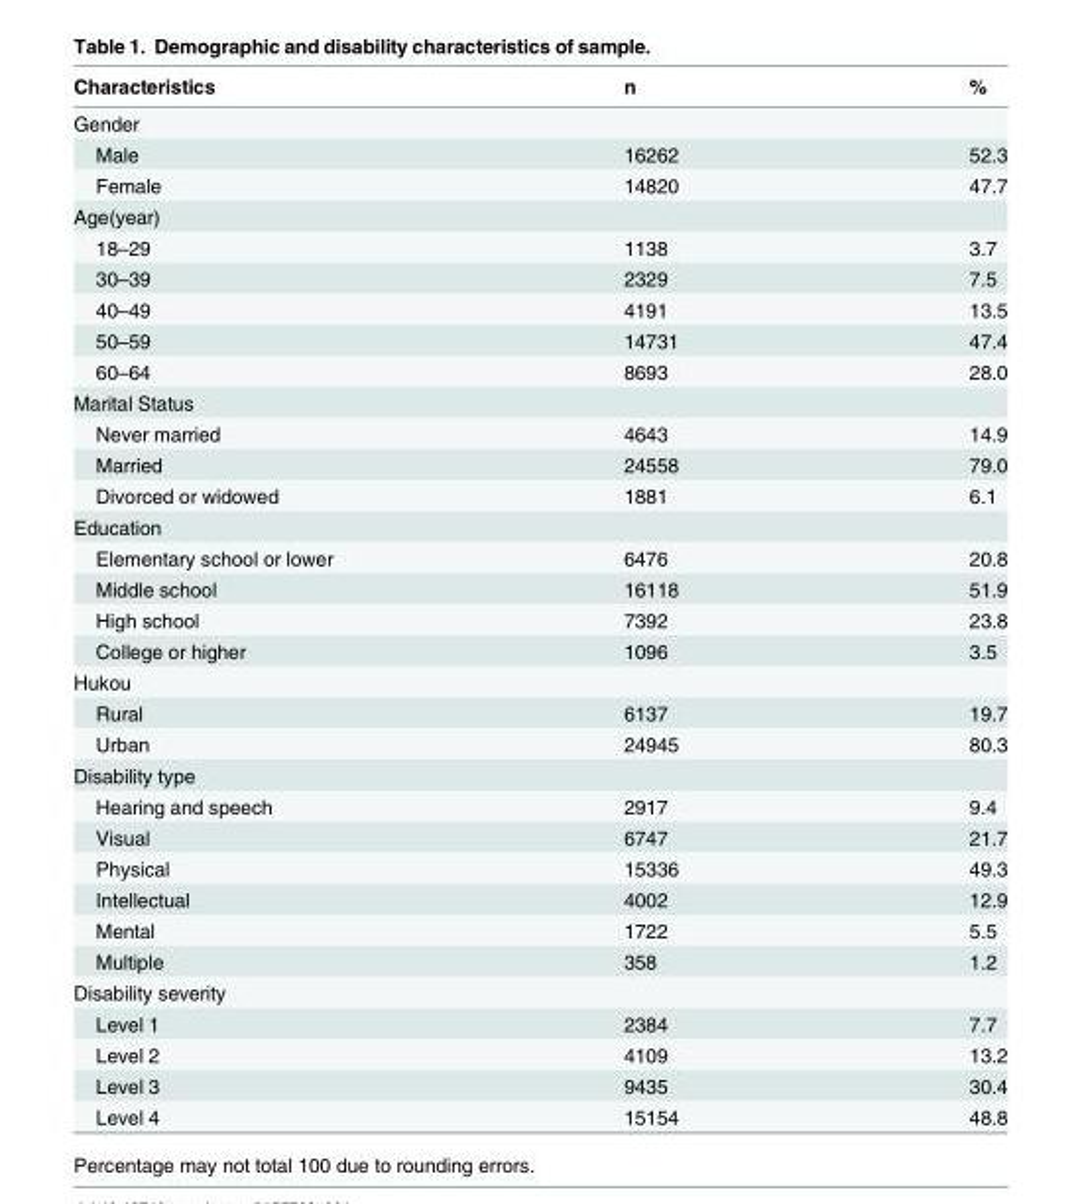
<table><thead><tr><td>Characteristics</td><td>n</td><td>%</td></tr></thead><tbody><tr><td colspan="3">Gender</td></tr><tr><td>Male</td><td>16262</td><td>52.3</td></tr><tr><td>Female</td><td>14820</td><td>47.7</td></tr><tr><td colspan="3">Age(year)</td></tr><tr><td>18–29</td><td>1138</td><td>3.7</td></tr><tr><td>30–39</td><td>2329</td><td>7.5</td></tr><tr><td>40–49</td><td>4191</td><td>13.5</td></tr><tr><td>50–59</td><td>14731</td><td>47.4</td></tr><tr><td>60–64</td><td>8693</td><td>28.0</td></tr><tr><td colspan="3">Marital Status</td></tr><tr><td>Never married</td><td>4643</td><td>14.9</td></tr><tr><td>Married</td><td>24558</td><td>79.0</td></tr><tr><td>Divorced or widowed</td><td>1881</td><td>6.1</td></tr><tr><td colspan="3">Education</td></tr><tr><td>Elementary school or lower</td><td>6476</td><td>20.8</td></tr><tr><td>Middle school</td><td>16118</td><td>51.9</td></tr><tr><td>High school</td><td>7392</td><td>23.8</td></tr><tr><td>College or higher</td><td>1096</td><td>3.5</td></tr><tr><td colspan="3">Hukou</td></tr><tr><td>Rural</td><td>6137</td><td>19.7</td></tr><tr><td>Urban</td><td>24945</td><td>80.3</td></tr><tr><td colspan="3">Disability type</td></tr><tr><td>Hearing and speech</td><td>2917</td><td>9.4</td></tr><tr><td>Visual</td><td>6747</td><td>21.7</td></tr><tr><td>Physical</td><td>15336</td><td>49.3</td></tr><tr><td>Intellectual</td><td>4002</td><td>12.9</td></tr><tr><td>Mental</td><td>1722</td><td>5.5</td></tr><tr><td>Multiple</td><td>358</td><td>1.2</td></tr><tr><td colspan="3">Disability severity</td></tr><tr><td>Level 1</td><td>2384</td><td>7.7</td></tr><tr><td>Level 2</td><td>4109</td><td>13.2</td></tr><tr><td>Level 3</td><td>9435</td><td>30.4</td></tr><tr><td>Level 4</td><td>15154</td><td>48.8</td></tr></tbody></table>